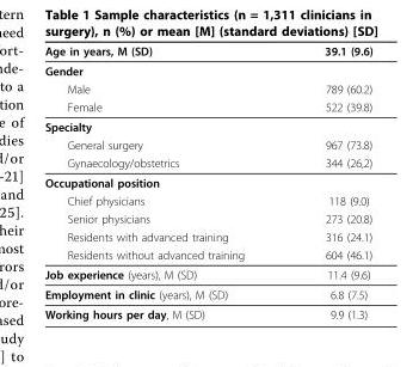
<table><thead><tr><td>Age in years, M (SD)</td><td>39.1 (9.6)</td></tr></thead><tbody><tr><td colspan="2">Gender</td></tr><tr><td>Male</td><td>789 (60.2)</td></tr><tr><td>Female</td><td>522 (39.8)</td></tr><tr><td colspan="2">Specialty</td></tr><tr><td>General surgery</td><td>967 (73.8)</td></tr><tr><td>Gynaecology/obstetrics</td><td>344 (26,2)</td></tr><tr><td colspan="2">Occupational position</td></tr><tr><td>Chief physicians</td><td>118 (9.0)</td></tr><tr><td>Senior physicians</td><td>273 (20.8)</td></tr><tr><td>Residents with advanced training</td><td>316 (24.1)</td></tr><tr><td>Residents without advanced training</td><td>604 (46.1)</td></tr><tr><td>Job experience (years), M (SD)</td><td>11.4 (9.6)</td></tr><tr><td>Employment in clinic (years), M (SD)</td><td>6.8 (7.5)</td></tr><tr><td>Working hours per day, M (SD)</td><td>9.9 (1.3)</td></tr></tbody></table>